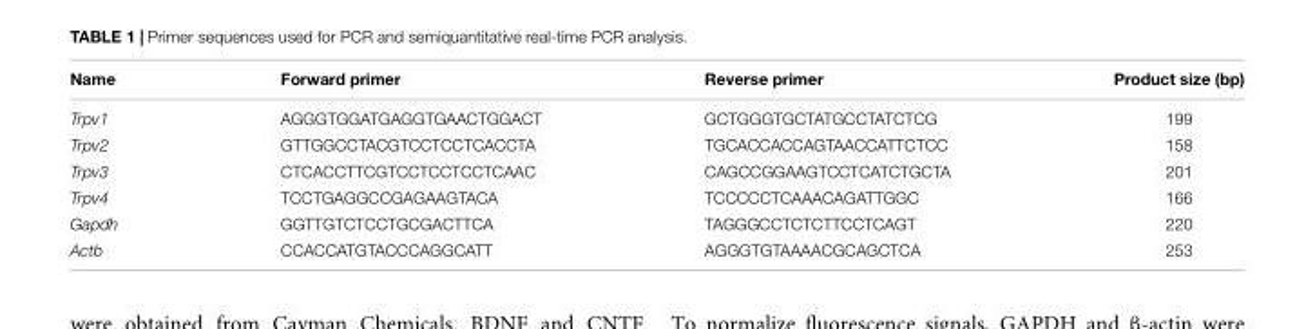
<table><thead><tr><td>Name</td><td>Forward primer</td><td>Reverse primer</td><td>Product size (bp)</td></tr></thead><tbody><tr><td>Trpv1</td><td>AGGGTGGATGAGGTGAACTGGACT</td><td>GCTGGGTGCTATGCCTATCTCG</td><td>199</td></tr><tr><td>Trpv2</td><td>GTTGGCCTACGTCCTCCTCACCTA</td><td>TGCACCACCAGTAACCATTCTCC</td><td>158</td></tr><tr><td>Trpv3</td><td>CTCACCTTCGTCCTCCTCCTCAAC</td><td>CAGCCGGAAGTCCTCATCTGCTA</td><td>201</td></tr><tr><td>Trpv4</td><td>TCCTGAGGCCGAGAAGTACA</td><td>TCCCCCTCAAACAGATTGGC</td><td>166</td></tr><tr><td>Gapdh</td><td>GGTTGTCTCCTGCGACTTCA</td><td>TAGGGCCTCTCTTCCTCAGT</td><td>220</td></tr><tr><td>Actb</td><td>CCACCATGTACCCAGGCATT</td><td>AGGGTGTAAAACGCAGCTCA</td><td>253</td></tr></tbody></table>